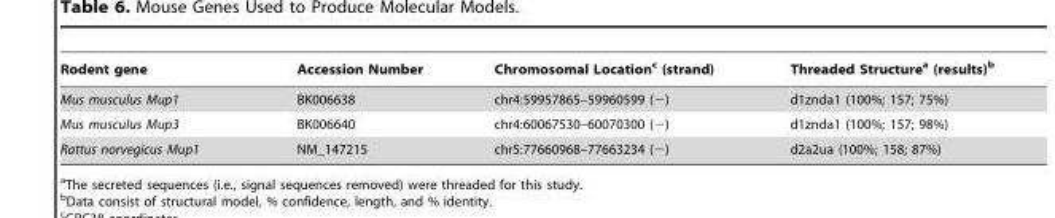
<table><thead><tr><td>Rodent gene</td><td>Accession Number</td><td>Chromosomal Location<sup>c</sup> (strand)</td><td>Threaded Structure<sup>a</sup> (results)<sup>b</sup></td></tr></thead><tbody><tr><td>Mus musculus Mup1</td><td>BK006638</td><td>chr4:59957865–59960599 (−)</td><td>d1znda1 (100%; 157; 75%)</td></tr><tr><td>Mus musculus Mup3</td><td>BK006640</td><td>chr4:60067530–60070300 (−)</td><td>d1znda1 (100%; 157; 98%)</td></tr><tr><td>Rattus norvegicus Mup1</td><td>NM_147215</td><td>chr5:77660968–77663234 (−)</td><td>d2a2ua (100%; 158; 87%)</td></tr></tbody></table>